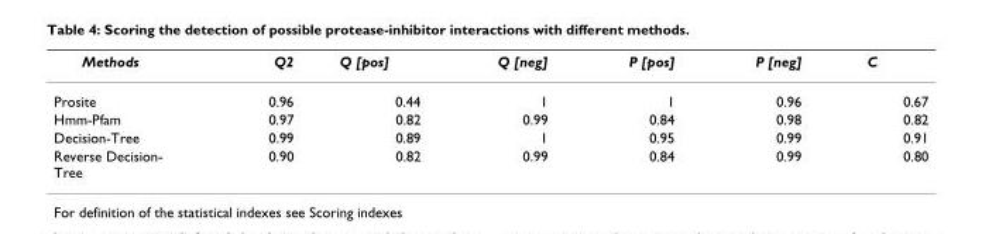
<table><thead><tr><td>Methods</td><td>Q2</td><td>Q [pos]</td><td>Q [neg]</td><td>P [pos]</td><td>P [neg]</td><td>C</td></tr></thead><tbody><tr><td>Prosite</td><td>0.96</td><td>0.44</td><td>1</td><td>1</td><td>0.96</td><td>0.67</td></tr><tr><td>Hmm-Pfam</td><td>0.97</td><td>0.82</td><td>0.99</td><td>0.84</td><td>0.98</td><td>0.82</td></tr><tr><td>Decision-Tree</td><td>0.99</td><td>0.89</td><td>1</td><td>0.95</td><td>0.99</td><td>0.91</td></tr><tr><td>Reverse Decision- Tree</td><td>0.90</td><td>0.82</td><td>0.99</td><td>0.84</td><td>0.99</td><td>0.80</td></tr></tbody></table>